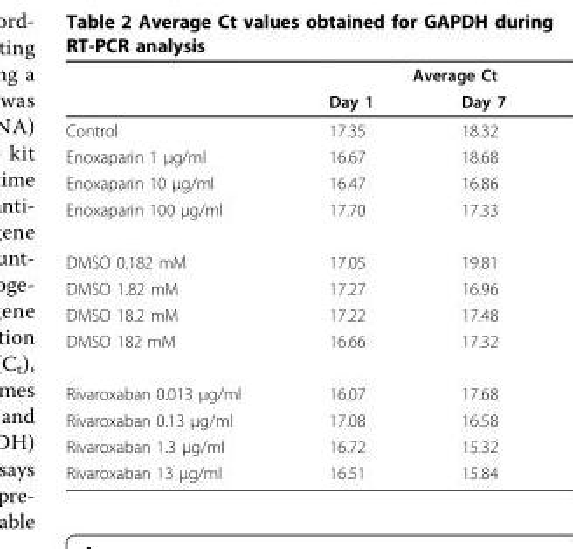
<table><thead><tr><td rowspan="2"></td><td colspan="2">Average Ct</td></tr><tr><td>Day 1</td><td>Day 7</td></tr></thead><tbody><tr><td>Control</td><td>17.35</td><td>18.32</td></tr><tr><td>Enoxaparin 1 μg/ml</td><td>16.67</td><td>18.68</td></tr><tr><td>Enoxaparin 10 μg/ml</td><td>16.47</td><td>16.86</td></tr><tr><td>Enoxaparin 100 μg/ml</td><td>17.70</td><td>17.33</td></tr><tr><td>DMSO 0.182 mM</td><td>17.05</td><td>19.81</td></tr><tr><td>DMSO 1.82 mM</td><td>17.27</td><td>16.96</td></tr><tr><td>DMSO 18.2 mM</td><td>17.22</td><td>17.48</td></tr><tr><td>DMSO 182 mM</td><td>16.66</td><td>17.32</td></tr><tr><td>Rivaroxaban 0.013 μg/ml</td><td>16.07</td><td>17.68</td></tr><tr><td>Rivaroxaban 0.13 μg/ml</td><td>17.08</td><td>16.58</td></tr><tr><td>Rivaroxaban 1.3 μg/ml</td><td>16.72</td><td>15.32</td></tr><tr><td>Rivaroxaban 13 μg/ml</td><td>16.51</td><td>15.84</td></tr></tbody></table>